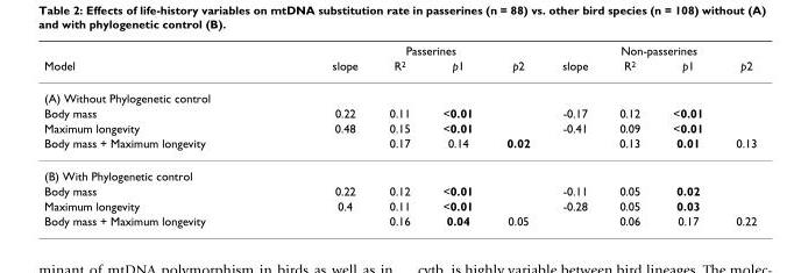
<table><thead><tr><td rowspan="2">Model</td><td colspan="4">Passerines</td><td colspan="4">Non-passerines</td></tr><tr><td>slope</td><td>R<sup>2</sup></td><td>p1</td><td>p2</td><td>slope</td><td>R<sup>2</sup></td><td>p1</td><td>p2</td></tr></thead><tbody><tr><td colspan="9">(A) Without Phylogenetic control</td></tr><tr><td>Body mass</td><td>0.22</td><td>0.11</td><td>&lt;0.01</td><td></td><td>-0.17</td><td>0.12</td><td>&lt;0.01</td><td></td></tr><tr><td>Maximum longevity</td><td>0.48</td><td>0.15</td><td>&lt;0.01</td><td></td><td>-0.41</td><td>0.09</td><td>&lt;0.01</td><td></td></tr><tr><td>Body mass + Maximum longevity</td><td></td><td>0.17</td><td>0.14</td><td>0.02</td><td></td><td>0.13</td><td>0.01</td><td>0.13</td></tr><tr><td colspan="9">(B) With Phylogenetic control</td></tr><tr><td>Body mass</td><td>0.22</td><td>0.12</td><td>&lt;0.01</td><td></td><td>-0.11</td><td>0.05</td><td>0.02</td><td></td></tr><tr><td>Maximum longevity</td><td>0.4</td><td>0.11</td><td>&lt;0.01</td><td></td><td>-0.28</td><td>0.05</td><td>0.03</td><td></td></tr><tr><td>Body mass + Maximum longevity</td><td></td><td>0.16</td><td>0.04</td><td>0.05</td><td></td><td>0.06</td><td>0.17</td><td>0.22</td></tr></tbody></table>